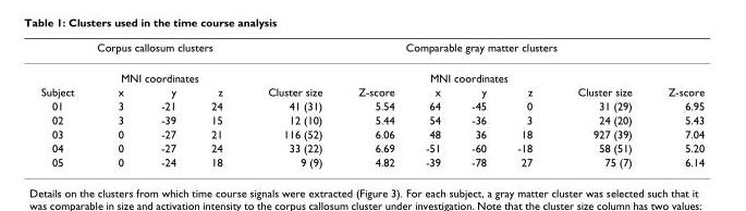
<table><thead><tr><td rowspan="3">Subject</td><td colspan="5">Corpus callosum clusters</td><td colspan="5">Comparable gray matter clusters</td></tr><tr><td colspan="3">MNI coordinates</td><td rowspan="2">Cluster size</td><td rowspan="2">Z-score</td><td colspan="3">MNI coordinates</td><td rowspan="2">Cluster size</td><td rowspan="2">Z-score</td></tr><tr><td>x</td><td>y</td><td>z</td><td>x</td><td>y</td><td>z</td></tr></thead><tbody><tr><td>01</td><td>3</td><td>-21</td><td>24</td><td>41 (31)</td><td>5.54</td><td>64</td><td>-45</td><td>0</td><td>31 (29)</td><td>6.95</td></tr><tr><td>02</td><td>3</td><td>-39</td><td>15</td><td>12 (10)</td><td>5.44</td><td>54</td><td>-36</td><td>3</td><td>24 (20)</td><td>5.43</td></tr><tr><td>03</td><td>0</td><td>-27</td><td>21</td><td>116 (52)</td><td>6.06</td><td>48</td><td>36</td><td>18</td><td>927 (39)</td><td>7.04</td></tr><tr><td>04</td><td>0</td><td>-27</td><td>24</td><td>33 (22)</td><td>6.69</td><td>-51</td><td>-60</td><td>-18</td><td>58 (51)</td><td>5.20</td></tr><tr><td>05</td><td>0</td><td>-24</td><td>18</td><td>9 (9)</td><td>4.82</td><td>-39</td><td>-78</td><td>27</td><td>75 (7)</td><td>6.14</td></tr></tbody></table>